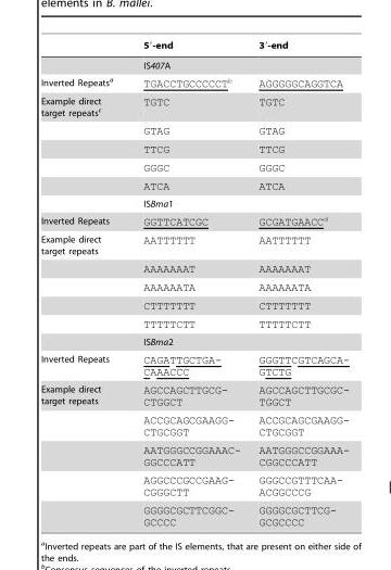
<table><thead><tr><td></td><td>5′-end</td><td>3′-end</td></tr></thead><tbody><tr><td></td><td colspan="2">IS407A</td></tr><tr><td>Inverted Repeats<sup>a</sup></td><td>TGACCTGCCCCCTb</td><td>AGGGGGCAGGTCA</td></tr><tr><td rowspan="6">Example direct target repeats<sup>c</sup></td><td>TGTC</td><td>TGTC</td></tr><tr><td>GTAG</td><td>GTAG</td></tr><tr><td>TTCG</td><td>TTCG</td></tr><tr><td>GGGC</td><td>GGGC</td></tr><tr><td>ATCA</td><td>ATCA</td></tr><tr><td colspan="2">ISBma1</td></tr><tr><td>Inverted Repeats</td><td>GGTTCATCGC</td><td>GCGATGAACCd</td></tr><tr><td rowspan="6">Example direct target repeats</td><td>AATTTTTT</td><td>AATTTTTT</td></tr><tr><td>AAAAAAAT</td><td>AAAAAAAT</td></tr><tr><td>AAAAAATA</td><td>AAAAAATA</td></tr><tr><td>CTTTTTTT</td><td>CTTTTTTT</td></tr><tr><td>TTTTTCTT</td><td>TTTTTCTT</td></tr><tr><td colspan="2">ISBma2</td></tr><tr><td>Inverted Repeats</td><td>CAGATTGCTGA- CAAACCC</td><td>GGGTTCGTCAGCA- GTCTG</td></tr><tr><td rowspan="5">Example direct target repeats</td><td>AGCCAGCTTGCG- CTGGCT</td><td>AGCCAGCTTGCGC- TGGCT</td></tr><tr><td>ACCGCAGCGAAGG- CTGCGGT</td><td>ACCGCAGCGAAGG- CTGCGGT</td></tr><tr><td>AATGGGCCGGAAAC- GGCCCATT</td><td>AATGGGCCGGAAA- CGGCCCATT</td></tr><tr><td>AGGCCCGCCGAAG- CGGGCTT</td><td>GGGCCGTTTCAA- ACGGCCCG</td></tr><tr><td>GGGGCGCTTCGGC- GCCCC</td><td>GGGGCGCTTCG- GCGCCCC</td></tr></tbody></table>